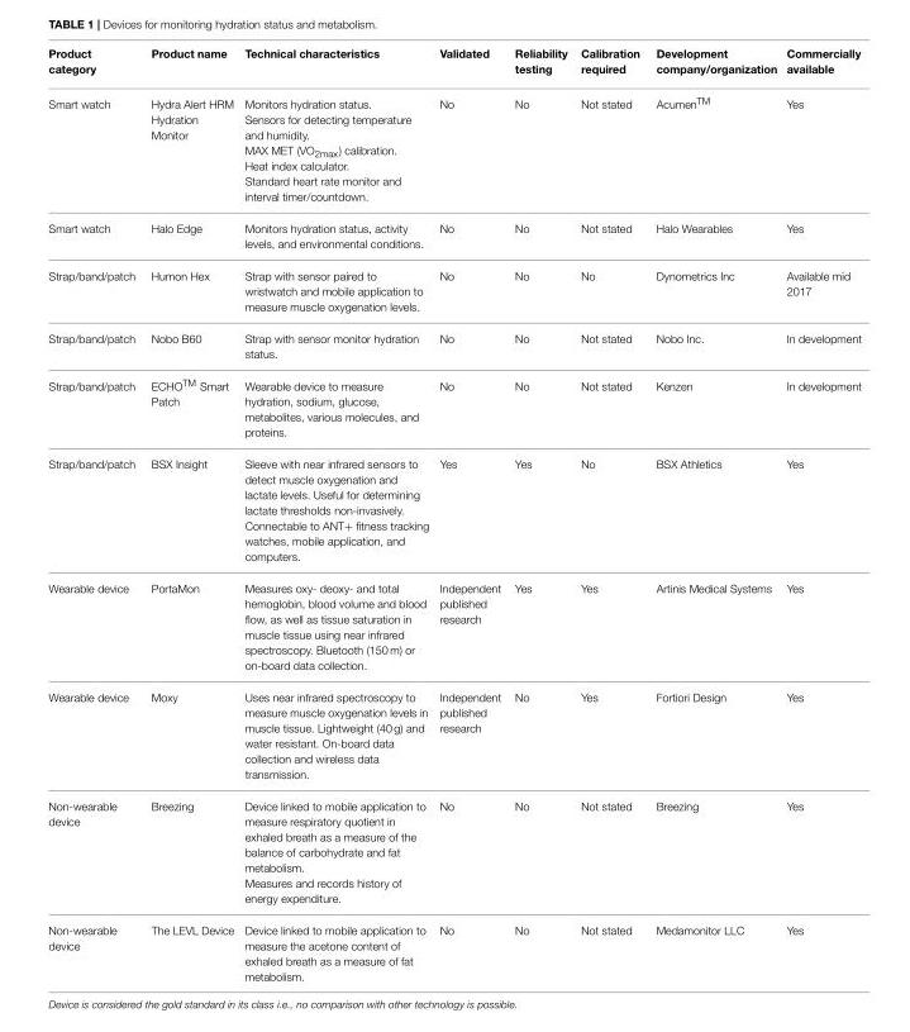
<table><thead><tr><td>Product category</td><td>Product name</td><td>Technical characteristics</td><td>Validated</td><td>Reliability testing</td><td>Calibration required</td><td>Development company/organization</td><td>Commercially available</td></tr></thead><tbody><tr><td>Smart watch</td><td>Hydra Alert HRM Hydration Monitor</td><td>Monitors hydration status. Sensors for detecting temperature and humidity. MAX MET (VO<sub>2max</sub>) calibration. Heat index calculator. Standard heart rate monitor and interval timer/countdown.</td><td>No</td><td>No</td><td>Not stated</td><td>AcumenTM</td><td>Yes</td></tr><tr><td>Smart watch</td><td>Halo Edge</td><td>Monitors hydration status, activity levels, and environmental conditions.</td><td>No</td><td>No</td><td>Not stated</td><td>Halo Wearables</td><td>Yes</td></tr><tr><td>Strap/band/patch</td><td>Humon Hex</td><td>Strap with sensor paired to wristwatch and mobile application to measure muscle oxygenation levels.</td><td>No</td><td>No</td><td>No</td><td>Dynometrics Inc</td><td>Available mid 2017</td></tr><tr><td>Strap/band/patch</td><td>Nobo B60</td><td>Strap with sensor monitor hydration status.</td><td>No</td><td>No</td><td>Not stated</td><td>Nobo Inc.</td><td>In development</td></tr><tr><td>Strap/band/patch</td><td>ECHOTM Smart Patch</td><td>Wearable device to measure hydration, sodium, glucose, metabolites, various molecules, and proteins.</td><td>No</td><td>No</td><td>Not stated</td><td>Kenzen</td><td>In development</td></tr><tr><td>Strap/band/patch</td><td>BSX Insight</td><td>Sleeve with near infrared sensors to detect muscle oxygenation and lactate levels. Useful for determining lactate thresholds non-invasively. Connectable to ANT+ fitness tracking watches, mobile application, and computers.</td><td>Yes</td><td>Yes</td><td>No</td><td>BSX Athletics</td><td>Yes</td></tr><tr><td>Wearable device</td><td>PortaMon</td><td>Measures oxy- deoxy- and total hemoglobin, blood volume and blood flow, as well as tissue saturation in muscle tissue using near infrared spectroscopy. Bluetooth (150 m) or on-board data collection.</td><td>Independent published research</td><td>Yes</td><td>Yes</td><td>Artinis Medical Systems</td><td>Yes</td></tr><tr><td>Wearable device</td><td>Moxy</td><td>Uses near infrared spectroscopy to measure muscle oxygenation levels in muscle tissue. Lightweight (40 g) and water resistant. On-board data collection and wireless data transmission.</td><td>Independent published research</td><td>No</td><td>Yes</td><td>Fortiori Design</td><td>Yes</td></tr><tr><td>Non-wearable device</td><td>Breezing</td><td>Device linked to mobile application to measure respiratory quotient in exhaled breath as a measure of the balance of carbohydrate and fat metabolism. Measures and records history of energy expenditure.</td><td>No</td><td>No</td><td>Not stated</td><td>Breezing</td><td>Yes</td></tr><tr><td>Non-wearable device</td><td>The LEVL Device</td><td>Device linked to mobile application to measure the acetone content of exhaled breath as a measure of fat metabolism.</td><td>No</td><td>No</td><td>Not stated</td><td>Medamonitor LLC</td><td>Yes</td></tr></tbody></table>